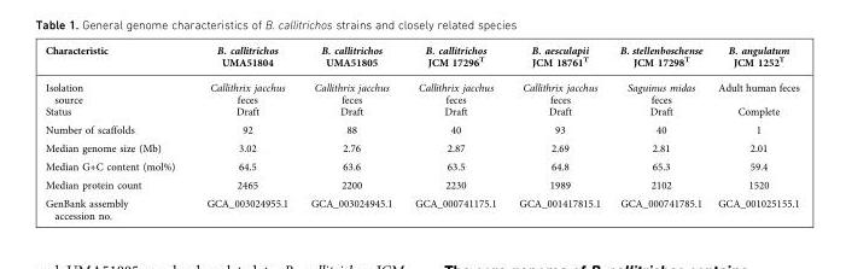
<table><thead><tr><td>Characteristic</td><td>B. callitrichos UMA51804</td><td>B. callitrichos UMA51805</td><td>B. callitrichos JCM 17296<sup>T</sup></td><td>B. aesculapii JCM 18761<sup>T</sup></td><td>B. stellenboschense JCM 17298<sup>T</sup></td><td>B. angulatum JCM 1252<sup>T</sup></td></tr></thead><tbody><tr><td>Isolation source</td><td>Callithrix jacchus feces</td><td>Callithrix jacchus feces</td><td>Callithrix jacchus feces</td><td>Callithrix jacchus feces</td><td>Saguinus midas feces</td><td>Adult human feces</td></tr><tr><td>Status</td><td>Draft</td><td>Draft</td><td>Draft</td><td>Draft</td><td>Draft</td><td>Complete</td></tr><tr><td>Number of scaffolds</td><td>92</td><td>88</td><td>40</td><td>93</td><td>40</td><td>1</td></tr><tr><td>Median genome size (Mb)</td><td>3.02</td><td>2.76</td><td>2.87</td><td>2.69</td><td>2.81</td><td>2.01</td></tr><tr><td>Median G+C content (mol%)</td><td>64.5</td><td>63.6</td><td>63.5</td><td>64.8</td><td>65.3</td><td>59.4</td></tr><tr><td>Median protein count</td><td>2465</td><td>2200</td><td>2230</td><td>1989</td><td>2102</td><td>1520</td></tr><tr><td>GenBank assembly accession no.</td><td>GCA_003024955.1</td><td>GCA_003024945.1</td><td>GCA_000741175.1</td><td>GCA_001417815.1</td><td>GCA_000741785.1</td><td>GCA_001025155.1</td></tr></tbody></table>